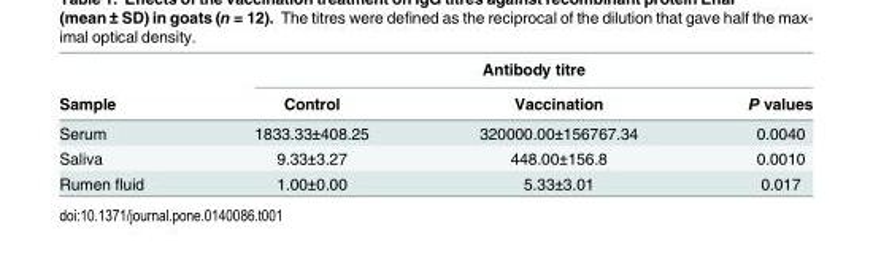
<table><thead><tr><td rowspan="2">Sample</td><td colspan="3">Antibody titre</td></tr><tr><td>Control</td><td>Vaccination</td><td>P values</td></tr></thead><tbody><tr><td>Serum</td><td>1833.33±408.25</td><td>320000.00±156767.34</td><td>0.0040</td></tr><tr><td>Saliva</td><td>9.33±3.27</td><td>448.00±156.8</td><td>0.0010</td></tr><tr><td>Rumen fluid</td><td>1.00±0.00</td><td>5.33±3.01</td><td>0.017</td></tr></tbody></table>